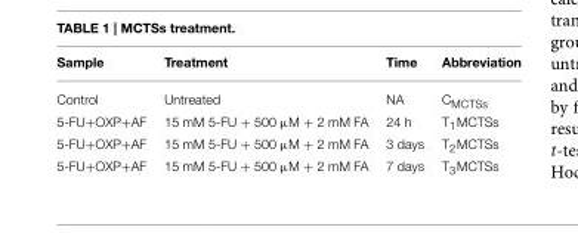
<table><thead><tr><td>Sample</td><td>Treatment</td><td>Time</td><td>Abbreviation</td></tr></thead><tbody><tr><td>Control</td><td>Untreated</td><td>NA</td><td>C<sub>MCTSs</sub></td></tr><tr><td>5-FU+OXP+AF</td><td>15 mM 5-FU + 500 µM + 2 mM FA</td><td>24 h</td><td>T<sub>1</sub>MCTSs</td></tr><tr><td>5-FU+OXP+AF</td><td>15 mM 5-FU + 500 µM + 2 mM FA</td><td>3 days</td><td>T<sub>2</sub>MCTSs</td></tr><tr><td>5-FU+OXP+AF</td><td>15 mM 5-FU + 500 µM + 2 mM FA</td><td>7 days</td><td>T<sub>3</sub>MCTSs</td></tr></tbody></table>